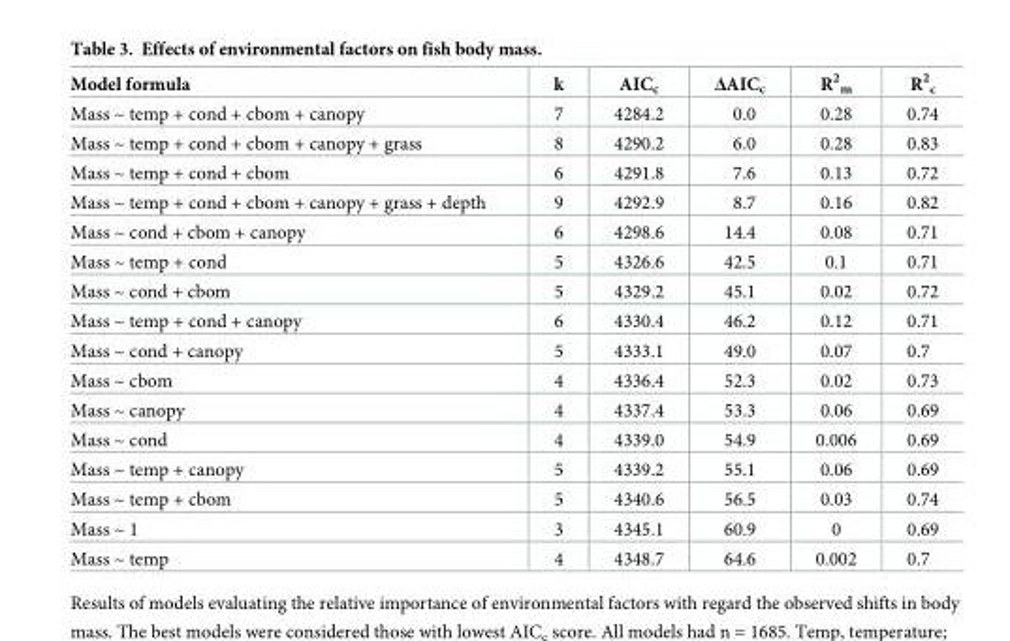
<table><thead><tr><td>Model formula</td><td>k</td><td>AIC<sub>c</sub></td><td>ΔAIC<sub>c</sub></td><td>R<sup>2</sup> <sub>m</sub></td><td>R<sup>2</sup> <sub>c</sub></td></tr></thead><tbody><tr><td>Mass ~ temp + cond + cbom + canopy</td><td>7</td><td>4284.2</td><td>0.0</td><td>0.28</td><td>0.74</td></tr><tr><td>Mass ~ temp + cond + cbom + canopy + grass</td><td>8</td><td>4290.2</td><td>6.0</td><td>0.28</td><td>0.83</td></tr><tr><td>Mass ~ temp + cond + cbom</td><td>6</td><td>4291.8</td><td>7.6</td><td>0.13</td><td>0.72</td></tr><tr><td>Mass ~ temp + cond + cbom + canopy + grass + depth</td><td>9</td><td>4292.9</td><td>8.7</td><td>0.16</td><td>0.82</td></tr><tr><td>Mass ~ cond + cbom + canopy</td><td>6</td><td>4298.6</td><td>14.4</td><td>0.08</td><td>0.71</td></tr><tr><td>Mass ~ temp + cond</td><td>5</td><td>4326.6</td><td>42.5</td><td>0.1</td><td>0.71</td></tr><tr><td>Mass ~ cond + cbom</td><td>5</td><td>4329.2</td><td>45.1</td><td>0.02</td><td>0.72</td></tr><tr><td>Mass ~ temp + cond + canopy</td><td>6</td><td>4330.4</td><td>46.2</td><td>0.12</td><td>0.71</td></tr><tr><td>Mass ~ cond + canopy</td><td>5</td><td>4333.1</td><td>49.0</td><td>0.07</td><td>0.7</td></tr><tr><td>Mass ~ cbom</td><td>4</td><td>4336.4</td><td>52.3</td><td>0.02</td><td>0.73</td></tr><tr><td>Mass ~ canopy</td><td>4</td><td>4337.4</td><td>53.3</td><td>0.06</td><td>0.69</td></tr><tr><td>Mass ~ cond</td><td>4</td><td>4339.0</td><td>54.9</td><td>0.006</td><td>0.69</td></tr><tr><td>Mass ~ temp + canopy</td><td>5</td><td>4339.2</td><td>55.1</td><td>0.06</td><td>0.69</td></tr><tr><td>Mass ~ temp + cbom</td><td>5</td><td>4340.6</td><td>56.5</td><td>0.03</td><td>0.74</td></tr><tr><td>Mass ~ 1</td><td>3</td><td>4345.1</td><td>60.9</td><td>0</td><td>0.69</td></tr><tr><td>Mass ~ temp</td><td>4</td><td>4348.7</td><td>64.6</td><td>0.002</td><td>0.7</td></tr></tbody></table>